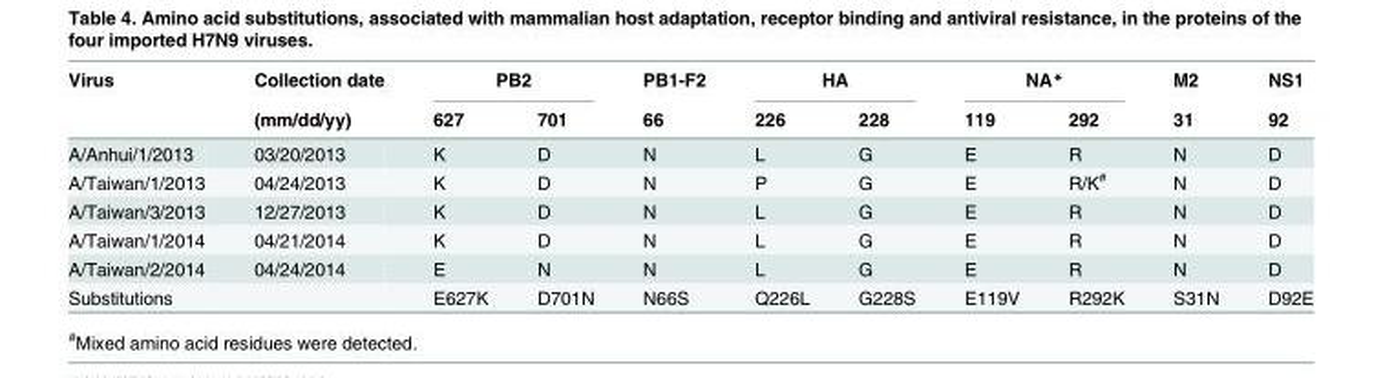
<table><thead><tr><td rowspan="2">Virus</td><td rowspan="2">Collection date (mm/dd/yy)</td><td colspan="2">PB2</td><td rowspan="2">PB1-F2 66</td><td colspan="2">HA</td><td colspan="2">NA*</td><td rowspan="2">M2 31</td><td rowspan="2">NS1 92</td></tr><tr><td>627</td><td>701</td><td>226</td><td>228</td><td>119</td><td>292</td></tr></thead><tbody><tr><td>A/Anhui/1/2013</td><td>03/20/2013</td><td>K</td><td>D</td><td>N</td><td>L</td><td>G</td><td>E</td><td>R</td><td>N</td><td>D</td></tr><tr><td>A/Taiwan/1/2013</td><td>04/24/2013</td><td>K</td><td>D</td><td>N</td><td>P</td><td>G</td><td>E</td><td>R/K<sup>#</sup></td><td>N</td><td>D</td></tr><tr><td>A/Taiwan/3/2013</td><td>12/27/2013</td><td>K</td><td>D</td><td>N</td><td>L</td><td>G</td><td>E</td><td>R</td><td>N</td><td>D</td></tr><tr><td>A/Taiwan/1/2014</td><td>04/21/2014</td><td>K</td><td>D</td><td>N</td><td>L</td><td>G</td><td>E</td><td>R</td><td>N</td><td>D</td></tr><tr><td>A/Taiwan/2/2014</td><td>04/24/2014</td><td>E</td><td>N</td><td>N</td><td>L</td><td>G</td><td>E</td><td>R</td><td>N</td><td>D</td></tr><tr><td>Substitutions</td><td></td><td>E627K</td><td>D701N</td><td>N66S</td><td>Q226L</td><td>G228S</td><td>E119V</td><td>R292K</td><td>S31N</td><td>D92E</td></tr></tbody></table>